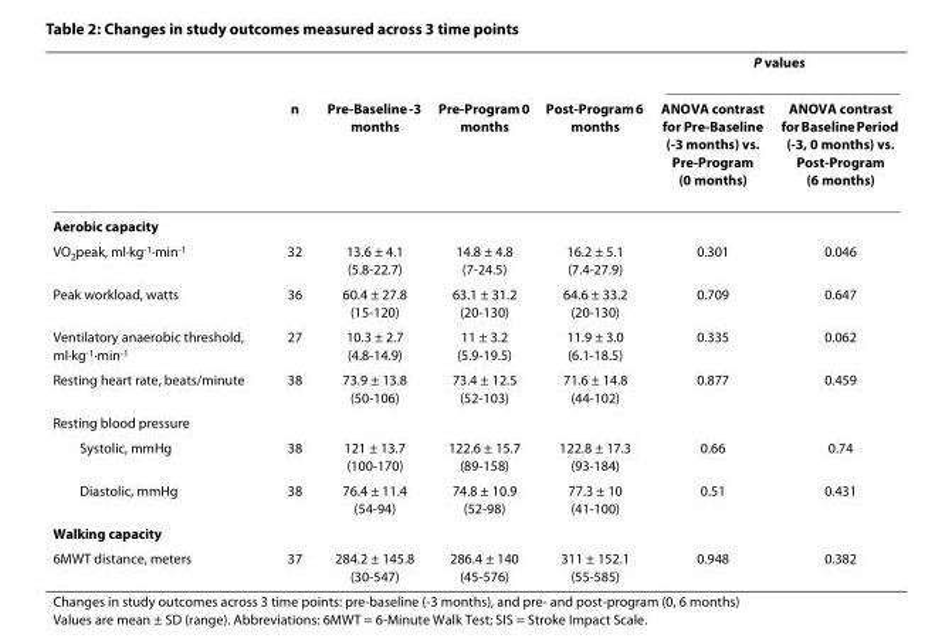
<table><thead><tr><td rowspan="2"></td><td rowspan="2">n</td><td rowspan="2">Pre-Baseline -3 months</td><td rowspan="2">Pre-Program 0 months</td><td rowspan="2">Post-Program 6 months</td><td colspan="2">P values</td></tr><tr><td>ANOVA contrast for Pre-Baseline (-3 months) vs. Pre-Program (0 months)</td><td>ANOVA contrast for Baseline Period (-3, 0 months) vs. Post-Program (6 months)</td></tr></thead><tbody><tr><td colspan="7">Aerobic capacity</td></tr><tr><td>VO<sub>2</sub>peak, ml·kg<sup>-1</sup>·min<sup>-1</sup></td><td>32</td><td>13.6 ± 4.1 (5.8-22.7)</td><td>14.8 ± 4.8 (7-24.5)</td><td>16.2 ± 5.1 (7.4-27.9)</td><td>0.301</td><td>0.046</td></tr><tr><td>Peak workload, watts</td><td>36</td><td>60.4 ± 27.8 (15-120)</td><td>63.1 ± 31.2 (20-130)</td><td>64.6 ± 33.2 (20-130)</td><td>0.709</td><td>0.647</td></tr><tr><td>Ventilatory anaerobic threshold, ml·kg<sup>-1</sup>·min<sup>-1</sup></td><td>27</td><td>10.3 ± 2.7 (4.8-14.9)</td><td>11 ± 3.2 (5.9-19.5)</td><td>11.9 ± 3.0 (6.1-18.5)</td><td>0.335</td><td>0.062</td></tr><tr><td>Resting heart rate, beats/minute</td><td>38</td><td>73.9 ± 13.8 (50-106)</td><td>73.4 ± 12.5 (52-103)</td><td>71.6 ± 14.8 (44-102)</td><td>0.877</td><td>0.459</td></tr><tr><td colspan="7">Resting blood pressure</td></tr><tr><td>Systolic, mmHg</td><td>38</td><td>121 ± 13.7 (100-170)</td><td>122.6 ± 15.7 (89-158)</td><td>122.8 ± 17.3 (93-184)</td><td>0.66</td><td>0.74</td></tr><tr><td>Diastolic, mmHg</td><td>38</td><td>76.4 ± 11.4 (54-94)</td><td>74.8 ± 10.9 (52-98)</td><td>77.3 ± 10 (41-100)</td><td>0.51</td><td>0.431</td></tr><tr><td colspan="7">Walking capacity</td></tr><tr><td>6MWT distance, meters</td><td>37</td><td>284.2 ± 145.8 (30-547)</td><td>286.4 ± 140 (45-576)</td><td>311 ± 152.1 (55-585)</td><td>0.948</td><td>0.382</td></tr></tbody></table>